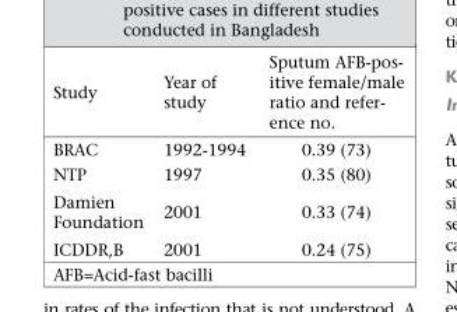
<table><thead><tr><td>Study</td><td>Year of study</td><td>Sputum AFB-pos- itive female/male ratio and refer- ence no.</td></tr></thead><tbody><tr><td>BRAC</td><td>1992-1994</td><td>0.39 (73)</td></tr><tr><td>NTP</td><td>1997</td><td>0.35 (80)</td></tr><tr><td>Damien Foundation</td><td>2001</td><td>0.33 (74)</td></tr><tr><td>ICDDR,B</td><td>2001</td><td>0.24 (75)</td></tr></tbody></table>